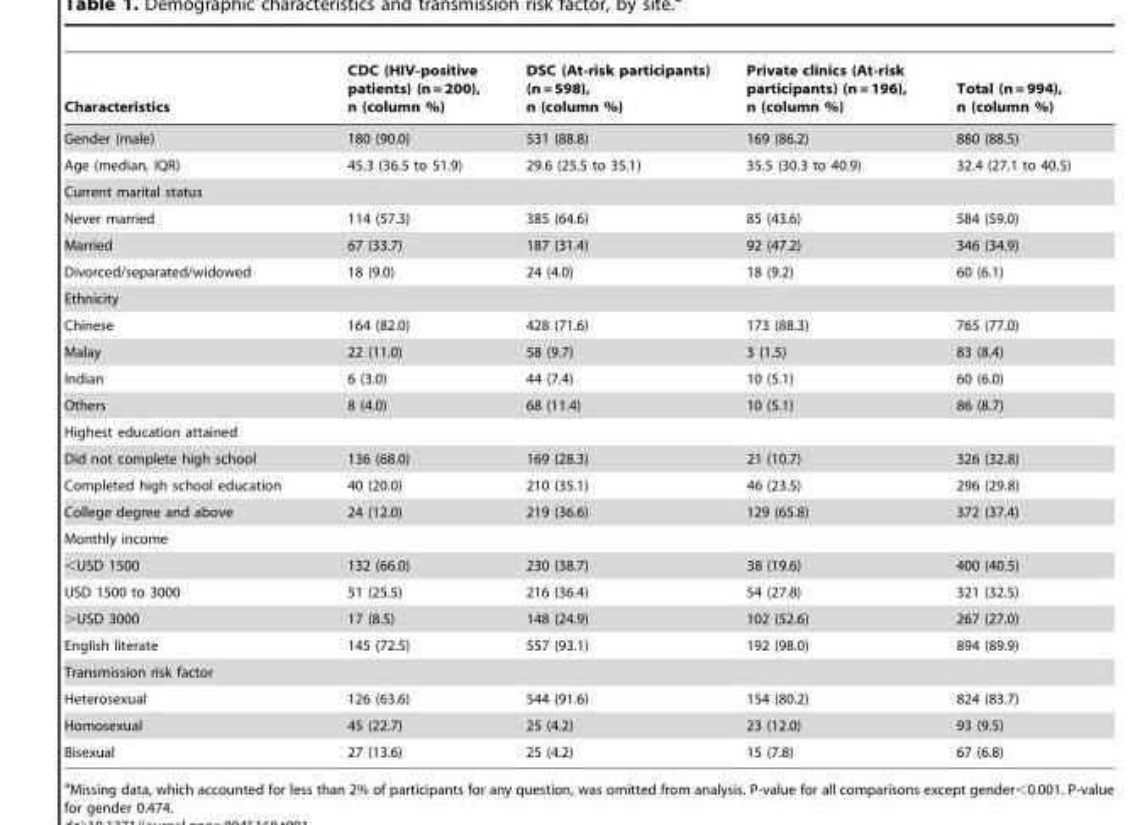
<table><thead><tr><td>Characteristics</td><td>CDC (HIV-positive patients) (n = 200), n (column %)</td><td>DSC (At-risk participants) (n = 598), n (column %)</td><td>Private clinics (At-risk participants) (n = 196), n (column %)</td><td>Total (n = 994), n (column %)</td></tr></thead><tbody><tr><td>Gender (male)</td><td>180 (90.0)</td><td>531 (88.8)</td><td>169 (86.2)</td><td>880 (88.5)</td></tr><tr><td>Age (median, IQR)</td><td>45.3 (36.5 to 51.9)</td><td>29.6 (25.5 to 35.1)</td><td>35.5 (30.3 to 40.9)</td><td>32.4 (27.1 to 40.5)</td></tr><tr><td colspan="5">Current marital status</td></tr><tr><td>Never married</td><td>114 (57.3)</td><td>385 (64.6)</td><td>85 (43.6)</td><td>584 (59.0)</td></tr><tr><td>Married</td><td>67 (33.7)</td><td>187 (31.4)</td><td>92 (47.2)</td><td>346 (34.9)</td></tr><tr><td>Divorced/separated/widowed</td><td>18 (9.0)</td><td>24 (4.0)</td><td>18 (9.2)</td><td>60 (6.1)</td></tr><tr><td colspan="5">Ethnicity</td></tr><tr><td>Chinese</td><td>164 (82.0)</td><td>428 (71.6)</td><td>173 (88.3)</td><td>765 (77.0)</td></tr><tr><td>Malay</td><td>22 (11.0)</td><td>58 (9.7)</td><td>3 (1.5)</td><td>83 (8.4)</td></tr><tr><td>Indian</td><td>6 (3.0)</td><td>44 (7.4)</td><td>10 (5.1)</td><td>60 (6.0)</td></tr><tr><td>Others</td><td>8 (4.0)</td><td>68 (11.4)</td><td>10 (5.1)</td><td>86 (8.7)</td></tr><tr><td colspan="5">Highest education attained</td></tr><tr><td>Did not complete high school</td><td>136 (68.0)</td><td>169 (28.3)</td><td>21 (10.7)</td><td>326 (32.8)</td></tr><tr><td>Completed high school education</td><td>40 (20.0)</td><td>210 (35.1)</td><td>46 (23.5)</td><td>296 (29.8)</td></tr><tr><td>College degree and above</td><td>24 (12.0)</td><td>219 (36.6)</td><td>129 (65.8)</td><td>372 (37.4)</td></tr><tr><td colspan="5">Monthly income</td></tr><tr><td>&lt;USD 1500</td><td>132 (66.0)</td><td>230 (38.7)</td><td>38 (19.6)</td><td>400 (40.5)</td></tr><tr><td>USD 1500 to 3000</td><td>51 (25.5)</td><td>216 (36.4)</td><td>54 (27.8)</td><td>321 (32.5)</td></tr><tr><td>&gt;USD 3000</td><td>17 (8.5)</td><td>148 (24.9)</td><td>102 (52.6)</td><td>267 (27.0)</td></tr><tr><td>English literate</td><td>145 (72.5)</td><td>557 (93.1)</td><td>192 (98.0)</td><td>894 (89.9)</td></tr><tr><td colspan="5">Transmission risk factor</td></tr><tr><td>Heterosexual</td><td>126 (63.6)</td><td>544 (91.6)</td><td>154 (80.2)</td><td>824 (83.7)</td></tr><tr><td>Homosexual</td><td>45 (22.7)</td><td>25 (4.2)</td><td>23 (12.0)</td><td>93 (9.5)</td></tr><tr><td>Bisexual</td><td>27 (13.6)</td><td>25 (4.2)</td><td>15 (7.8)</td><td>67 (6.8)</td></tr></tbody></table>